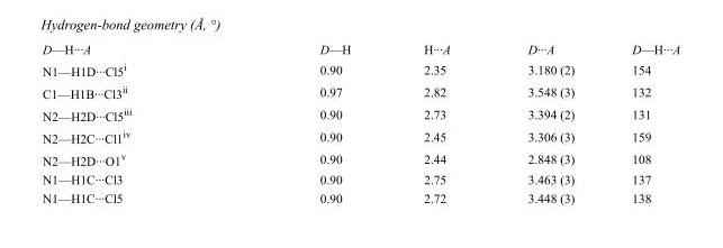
<table><tbody><tr><td>D—H···A</td><td>D—H</td><td>H···A</td><td>D···A</td><td>D—H···A</td></tr><tr><td>N1—H1D···Cl5<sup>i</sup></td><td>0.90</td><td>2.35</td><td>3.180 (2)</td><td>154</td></tr><tr><td>C1—H1B···Cl3<sup>ii</sup></td><td>0.97</td><td>2.82</td><td>3.548 (3)</td><td>132</td></tr><tr><td>N2—H2D···Cl5<sup>iii</sup></td><td>0.90</td><td>2.73</td><td>3.394 (2)</td><td>131</td></tr><tr><td>N2—H2C···Cl1<sup>iv</sup></td><td>0.90</td><td>2.45</td><td>3.306 (3)</td><td>159</td></tr><tr><td>N2—H2D···O1<sup>v</sup></td><td>0.90</td><td>2.44</td><td>2.848 (3)</td><td>108</td></tr><tr><td>N1—H1C···Cl3</td><td>0.90</td><td>2.75</td><td>3.463 (3)</td><td>137</td></tr><tr><td>N1—H1C···Cl5</td><td>0.90</td><td>2.72</td><td>3.448 (3)</td><td>138</td></tr></tbody></table>